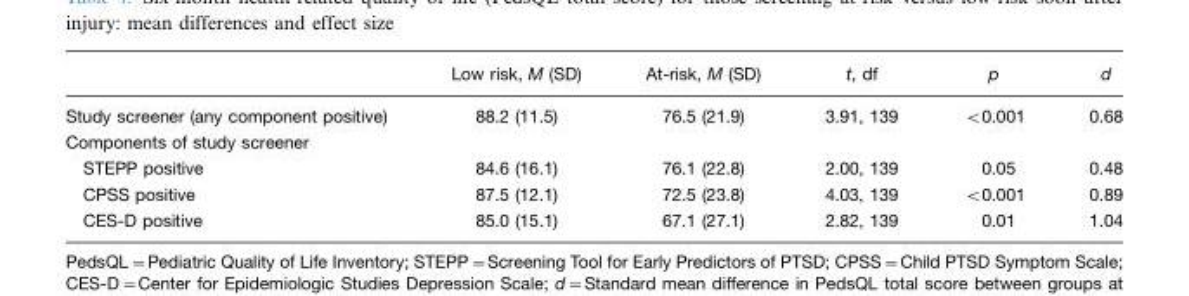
<table><thead><tr><td></td><td>Low risk, M (SD)</td><td>At-risk, M (SD)</td><td>t, df</td><td>p</td><td>d</td></tr></thead><tbody><tr><td>Study screener (any component positive)</td><td>88.2 (11.5)</td><td>76.5 (21.9)</td><td>3.91, 139</td><td>&lt;0.001</td><td>0.68</td></tr><tr><td colspan="6">Components of study screener</td></tr><tr><td>STEPP positive</td><td>84.6 (16.1)</td><td>76.1 (22.8)</td><td>2.00, 139</td><td>0.05</td><td>0.48</td></tr><tr><td>CPSS positive</td><td>87.5 (12.1)</td><td>72.5 (23.8)</td><td>4.03, 139</td><td>&lt;0.001</td><td>0.89</td></tr><tr><td>CES-D positive</td><td>85.0 (15.1)</td><td>67.1 (27.1)</td><td>2.82, 139</td><td>0.01</td><td>1.04</td></tr></tbody></table>